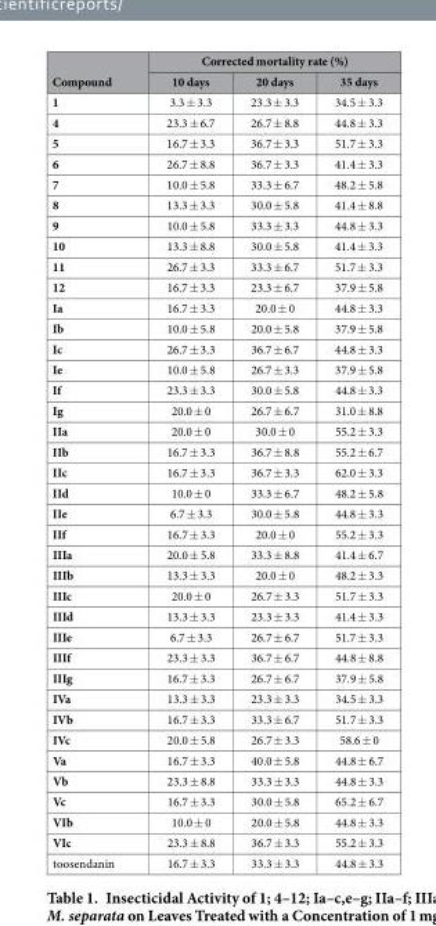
<table><thead><tr><td rowspan="2">Compound</td><td colspan="3">Corrected mortality rate (%)</td></tr><tr><td>10 days</td><td>20 days</td><td>35 days</td></tr></thead><tbody><tr><td>1</td><td>3.3 ± 3.3</td><td>23.3 ± 3.3</td><td>34.5 ± 3.3</td></tr><tr><td>4</td><td>23.3 ± 6.7</td><td>26.7 ± 8.8</td><td>44.8 ± 3.3</td></tr><tr><td>5</td><td>16.7 ± 3.3</td><td>36.7 ± 3.3</td><td>51.7 ± 3.3</td></tr><tr><td>6</td><td>26.7 ± 8.8</td><td>36.7 ± 3.3</td><td>41.4 ± 3.3</td></tr><tr><td>7</td><td>10.0 ± 5.8</td><td>33.3 ± 6.7</td><td>48.2 ± 5.8</td></tr><tr><td>8</td><td>13.3 ± 3.3</td><td>30.0 ± 5.8</td><td>41.4 ± 8.8</td></tr><tr><td>9</td><td>10.0 ± 5.8</td><td>33.3 ± 3.3</td><td>44.8 ± 3.3</td></tr><tr><td>10</td><td>13.3 ± 8.8</td><td>30.0 ± 5.8</td><td>41.4 ± 3.3</td></tr><tr><td>11</td><td>26.7 ± 3.3</td><td>33.3 ± 6.7</td><td>51.7 ± 3.3</td></tr><tr><td>12</td><td>16.7 ± 3.3</td><td>23.3 ± 6.7</td><td>37.9 ± 5.8</td></tr><tr><td>Ia</td><td>16.7 ± 3.3</td><td>20.0 ± 0</td><td>44.8 ± 3.3</td></tr><tr><td>Ib</td><td>10.0 ± 5.8</td><td>20.0 ± 5.8</td><td>37.9 ± 5.8</td></tr><tr><td>Ic</td><td>26.7 ± 3.3</td><td>36.7 ± 6.7</td><td>44.8 ± 3.3</td></tr><tr><td>Ie</td><td>10.0 ± 5.8</td><td>26.7 ± 3.3</td><td>37.9 ± 5.8</td></tr><tr><td>If</td><td>23.3 ± 3.3</td><td>30.0 ± 5.8</td><td>44.8 ± 3.3</td></tr><tr><td>Ig</td><td>20.0 ± 0</td><td>26.7 ± 6.7</td><td>31.0 ± 8.8</td></tr><tr><td>IIa</td><td>20.0 ± 0</td><td>30.0 ± 0</td><td>55.2 ± 3.3</td></tr><tr><td>IIb</td><td>16.7 ± 3.3</td><td>36.7 ± 8.8</td><td>55.2 ± 6.7</td></tr><tr><td>IIc</td><td>16.7 ± 3.3</td><td>36.7 ± 3.3</td><td>62.0 ± 3.3</td></tr><tr><td>IId</td><td>10.0 ± 0</td><td>33.3 ± 6.7</td><td>48.2 ± 5.8</td></tr><tr><td>IIe</td><td>6.7 ± 3.3</td><td>30.0 ± 5.8</td><td>44.8 ± 3.3</td></tr><tr><td>IIf</td><td>16.7 ± 3.3</td><td>20.0 ± 0</td><td>55.2 ± 3.3</td></tr><tr><td>IIIa</td><td>20.0 ± 5.8</td><td>33.3 ± 8.8</td><td>41.4 ± 6.7</td></tr><tr><td>IIIb</td><td>13.3 ± 3.3</td><td>20.0 ± 0</td><td>48.2 ± 3.3</td></tr><tr><td>IIIc</td><td>20.0 ± 0</td><td>26.7 ± 3.3</td><td>51.7 ± 3.3</td></tr><tr><td>IIId</td><td>13.3 ± 3.3</td><td>23.3 ± 3.3</td><td>41.4 ± 3.3</td></tr><tr><td>IIIe</td><td>6.7 ± 3.3</td><td>26.7 ± 6.7</td><td>51.7 ± 3.3</td></tr><tr><td>IIIf</td><td>23.3 ± 3.3</td><td>36.7 ± 6.7</td><td>44.8 ± 8.8</td></tr><tr><td>IIIg</td><td>16.7 ± 3.3</td><td>26.7 ± 6.7</td><td>37.9 ± 5.8</td></tr><tr><td>IVa</td><td>13.3 ± 3.3</td><td>23.3 ± 3.3</td><td>34.5 ± 3.3</td></tr><tr><td>IVb</td><td>16.7 ± 3.3</td><td>33.3 ± 6.7</td><td>51.7 ± 3.3</td></tr><tr><td>IVc</td><td>20.0 ± 5.8</td><td>26.7 ± 3.3</td><td>58.6 ± 0</td></tr><tr><td>Va</td><td>16.7 ± 3.3</td><td>40.0 ± 5.8</td><td>44.8 ± 6.7</td></tr><tr><td>Vb</td><td>23.3 ± 8.8</td><td>33.3 ± 3.3</td><td>44.8 ± 3.3</td></tr><tr><td>Vc</td><td>16.7 ± 3.3</td><td>30.0 ± 5.8</td><td>65.2 ± 6.7</td></tr><tr><td>VIb</td><td>10.0 ± 0</td><td>20.0 ± 5.8</td><td>44.8 ± 3.3</td></tr><tr><td>VIc</td><td>23.3 ± 8.8</td><td>36.7 ± 3.3</td><td>55.2 ± 3.3</td></tr><tr><td>toosendanin</td><td>16.7 ± 3.3</td><td>33.3 ± 3.3</td><td>44.8 ± 3.3</td></tr></tbody></table>